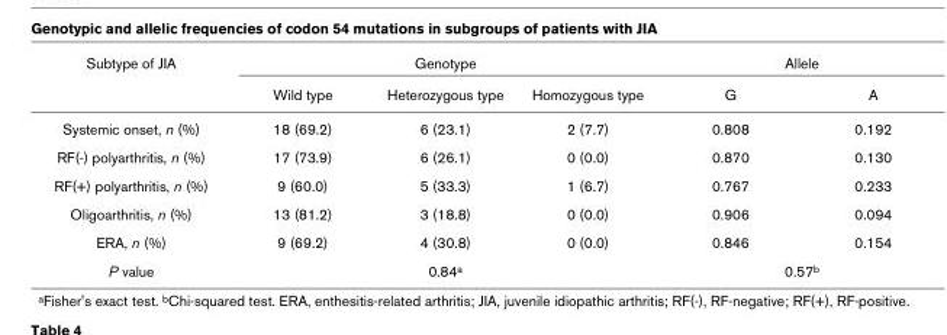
<table><thead><tr><td rowspan="2">Subtype of JIA</td><td colspan="3">Genotype</td><td colspan="2">Allele</td></tr><tr><td>Wild type</td><td>Heterozygous type</td><td>Homozygous type</td><td>G</td><td>A</td></tr></thead><tbody><tr><td>Systemic onset, n (%)</td><td>18 (69.2)</td><td>6 (23.1)</td><td>2 (7.7)</td><td>0.808</td><td>0.192</td></tr><tr><td>RF(-) polyarthritis, n (%)</td><td>17 (73.9)</td><td>6 (26.1)</td><td>0 (0.0)</td><td>0.870</td><td>0.130</td></tr><tr><td>RF(+) polyarthritis, n (%)</td><td>9 (60.0)</td><td>5 (33.3)</td><td>1 (6.7)</td><td>0.767</td><td>0.233</td></tr><tr><td>Oligoarthritis, n (%)</td><td>13 (81.2)</td><td>3 (18.8)</td><td>0 (0.0)</td><td>0.906</td><td>0.094</td></tr><tr><td>ERA, n (%)</td><td>9 (69.2)</td><td>4 (30.8)</td><td>0 (0.0)</td><td>0.846</td><td>0.154</td></tr><tr><td>P value</td><td></td><td>0.84a</td><td></td><td colspan="2">0.57b</td></tr></tbody></table>